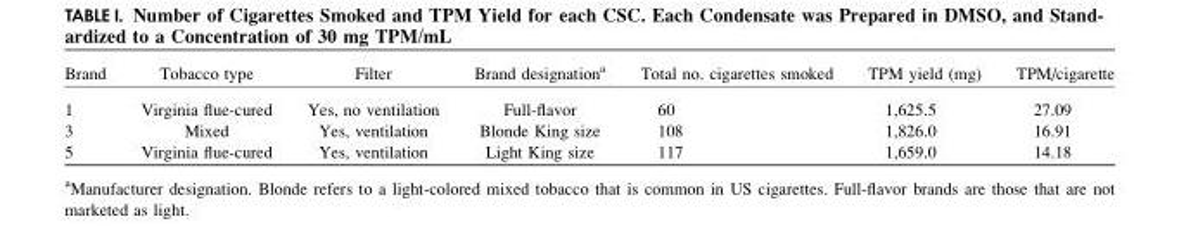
<table><thead><tr><td>Brand</td><td>Tobacco type</td><td>Filter</td><td>Brand designation<sup>a</sup></td><td>Total no. cigarettes smoked</td><td>TPM yield (mg)</td><td>TPM/cigarette</td></tr></thead><tbody><tr><td>1</td><td>Virginia flue-cured</td><td>Yes, no ventilation</td><td>Full-flavor</td><td>60</td><td>1,625.5</td><td>27.09</td></tr><tr><td>3</td><td>Mixed</td><td>Yes, ventilation</td><td>Blonde King size</td><td>108</td><td>1,826.0</td><td>16.91</td></tr><tr><td>5</td><td>Virginia flue-cured</td><td>Yes, ventilation</td><td>Light King size</td><td>117</td><td>1,659.0</td><td>14.18</td></tr></tbody></table>